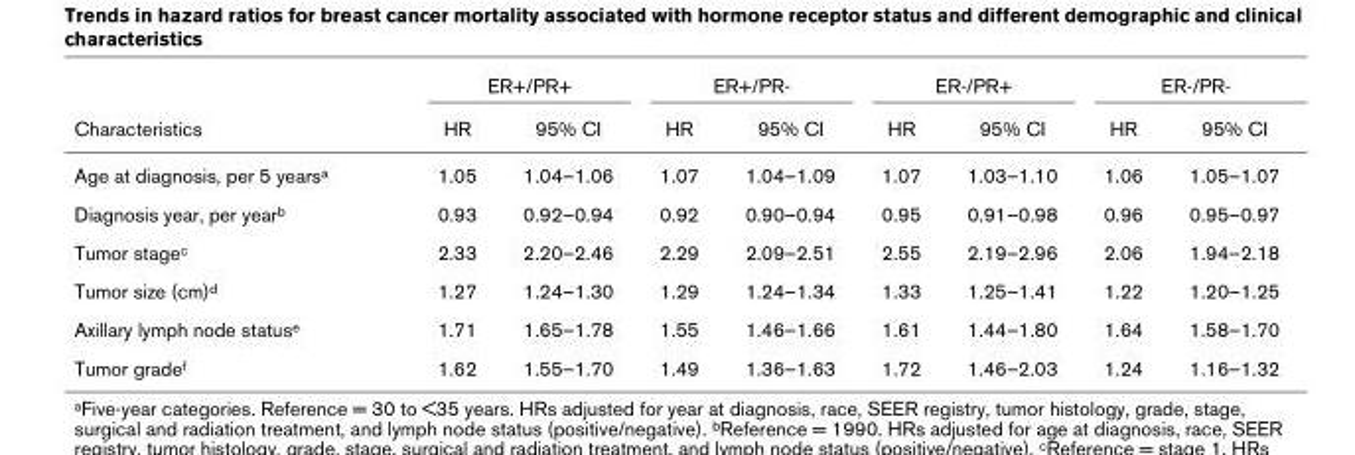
<table><thead><tr><td rowspan="2">Characteristics</td><td colspan="2">ER+/PR+</td><td colspan="2">ER+/PR-</td><td colspan="2">ER-/PR+</td><td colspan="2">ER-/PR-</td></tr><tr><td>HR</td><td>95% CI</td><td>HR</td><td>95% CI</td><td>HR</td><td>95% CI</td><td>HR</td><td>95% CI</td></tr></thead><tbody><tr><td>Age at diagnosis, per 5 yearsa</td><td>1.05</td><td>1.04–1.06</td><td>1.07</td><td>1.04–1.09</td><td>1.07</td><td>1.03–1.10</td><td>1.06</td><td>1.05–1.07</td></tr><tr><td>Diagnosis year, per yearb</td><td>0.93</td><td>0.92–0.94</td><td>0.92</td><td>0.90–0.94</td><td>0.95</td><td>0.91–0.98</td><td>0.96</td><td>0.95–0.97</td></tr><tr><td>Tumor stagec</td><td>2.33</td><td>2.20–2.46</td><td>2.29</td><td>2.09–2.51</td><td>2.55</td><td>2.19–2.96</td><td>2.06</td><td>1.94–2.18</td></tr><tr><td>Tumor size (cm)d</td><td>1.27</td><td>1.24–1.30</td><td>1.29</td><td>1.24–1.34</td><td>1.33</td><td>1.25–1.41</td><td>1.22</td><td>1.20–1.25</td></tr><tr><td>Axillary lymph node statuse</td><td>1.71</td><td>1.65–1.78</td><td>1.55</td><td>1.46–1.66</td><td>1.61</td><td>1.44–1.80</td><td>1.64</td><td>1.58–1.70</td></tr><tr><td>Tumor gradef</td><td>1.62</td><td>1.55–1.70</td><td>1.49</td><td>1.36–1.63</td><td>1.72</td><td>1.46–2.03</td><td>1.24</td><td>1.16–1.32</td></tr></tbody></table>